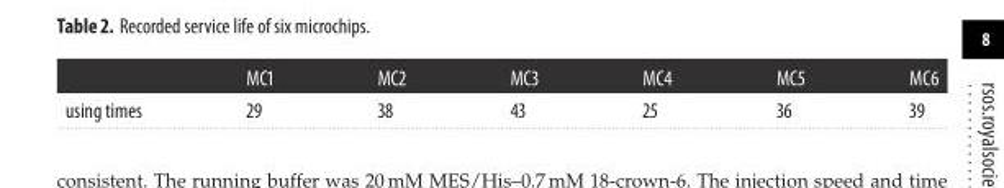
<table><thead><tr><td></td><td>MC1</td><td>MC2</td><td>MC3</td><td>MC4</td><td>MC5</td><td>MC6</td></tr></thead><tbody><tr><td>using times</td><td>29</td><td>38</td><td>43</td><td>25</td><td>36</td><td>39</td></tr></tbody></table>